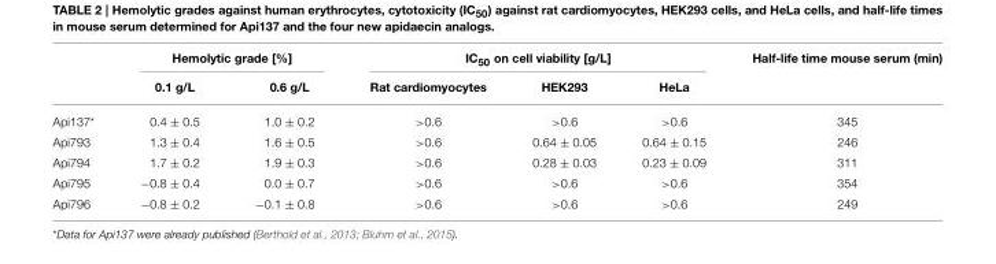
<table><thead><tr><td rowspan="2"></td><td colspan="2">Hemolytic grade [%]</td><td colspan="3">IC<sub>50</sub> on cell viability [g/L]</td><td rowspan="2">Half-life time mouse serum (min)</td></tr><tr><td>0.1 g/L</td><td>0.6 g/L</td><td>Rat cardiomyocytes</td><td>HEK293</td><td>HeLa</td></tr></thead><tbody><tr><td>Api137*</td><td>0.4 ± 0.5</td><td>1.0 ± 0.2</td><td>&gt;0.6</td><td>&gt;0.6</td><td>&gt;0.6</td><td>345</td></tr><tr><td>Api793</td><td>1.3 ± 0.4</td><td>1.6 ± 0.5</td><td>&gt;0.6</td><td>0.64 ± 0.05</td><td>0.64 ± 0.15</td><td>246</td></tr><tr><td>Api794</td><td>1.7 ± 0.2</td><td>1.9 ± 0.3</td><td>&gt;0.6</td><td>0.28 ± 0.03</td><td>0.23 ± 0.09</td><td>311</td></tr><tr><td>Api795</td><td>−0.8 ± 0.4</td><td>0.0 ± 0.7</td><td>&gt;0.6</td><td>&gt;0.6</td><td>&gt;0.6</td><td>354</td></tr><tr><td>Api796</td><td>−0.8 ± 0.2</td><td>−0.1 ± 0.8</td><td>&gt;0.6</td><td>&gt;0.6</td><td>&gt;0.6</td><td>249</td></tr></tbody></table>